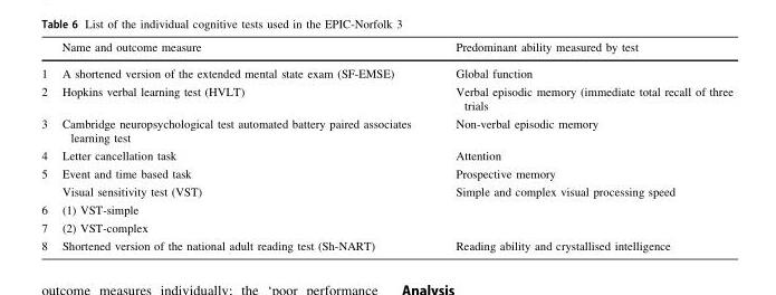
<table><thead><tr><td></td><td>Name and outcome measure</td><td>Predominant ability measured by test</td></tr></thead><tbody><tr><td>1</td><td>A shortened version of the extended mental state exam (SF-EMSE)</td><td>Global function</td></tr><tr><td>2</td><td>Hopkins verbal learning test (HVLT)</td><td>Verbal episodic memory (immediate total recall of three trials</td></tr><tr><td>3</td><td>Cambridge neuropsychological test automated battery paired associates learning test</td><td>Non-verbal episodic memory</td></tr><tr><td>4</td><td>Letter cancellation task</td><td>Attention</td></tr><tr><td rowspan="2">5</td><td>Event and time based task</td><td>Prospective memory</td></tr><tr><td>Visual sensitivity test (VST)</td><td rowspan="2">Simple and complex visual processing speed</td></tr><tr><td>6 7</td><td>(1) VST-simple (2) VST-complex</td></tr><tr><td>8</td><td>Shortened version of the national adult reading test (Sh-NART)</td><td>Reading ability and crystallised intelligence</td></tr></tbody></table>